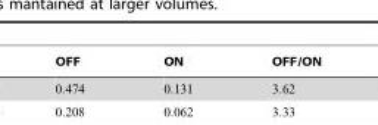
<table><thead><tr><td>OFF</td><td>ON</td><td>OFF/ON</td></tr></thead><tbody></tbody></table>